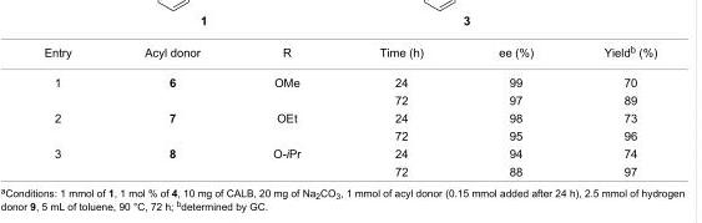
<table><tbody><tr><td>Entry</td><td>Acyl donor</td><td>R</td><td>Time (h)</td><td>ee (%)</td><td>Yield<sup>b</sup> (%)</td></tr><tr><td rowspan="2">1</td><td>6</td><td>OMe</td><td>24</td><td>99</td><td>70</td></tr><tr><td></td><td></td><td>72</td><td>97</td><td>89</td></tr><tr><td rowspan="2">2</td><td>7</td><td>OEt</td><td>24</td><td>98</td><td>73</td></tr><tr><td></td><td></td><td>72</td><td>95</td><td>96</td></tr><tr><td rowspan="2">3</td><td>8</td><td>O-iPr</td><td>24</td><td>94</td><td>74</td></tr><tr><td></td><td></td><td>72</td><td>88</td><td>97</td></tr></tbody></table>